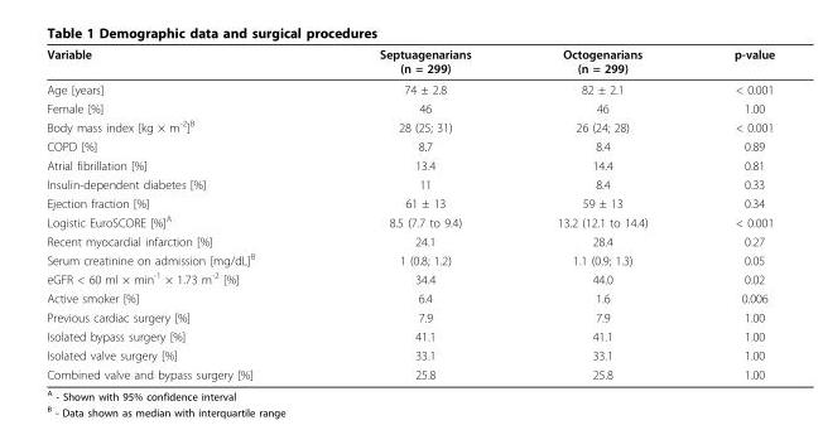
<table><thead><tr><td>Variable</td><td>Septuagenarians (n = 299)</td><td>Octogenarians (n = 299)</td><td>p-value</td></tr></thead><tbody><tr><td>Age [years]</td><td>74 ± 2.8</td><td>82 ± 2.1</td><td>&lt; 0.001</td></tr><tr><td>Female [%]</td><td>46</td><td>46</td><td>1.00</td></tr><tr><td>Body mass index [kg × m<sup>-2</sup>]<sup>B</sup></td><td>28 (25; 31)</td><td>26 (24; 28)</td><td>&lt; 0.001</td></tr><tr><td>COPD [%]</td><td>8.7</td><td>8.4</td><td>0.89</td></tr><tr><td>Atrial fibrillation [%]</td><td>13.4</td><td>14.4</td><td>0.81</td></tr><tr><td>Insulin-dependent diabetes [%]</td><td>11</td><td>8.4</td><td>0.33</td></tr><tr><td>Ejection fraction [%]</td><td>61 ± 13</td><td>59 ± 13</td><td>0.34</td></tr><tr><td>Logistic EuroSCORE [%]<sup>A</sup></td><td>8.5 (7.7 to 9.4)</td><td>13.2 (12.1 to 14.4)</td><td>&lt; 0.001</td></tr><tr><td>Recent myocardial infarction [%]</td><td>24.1</td><td>28.4</td><td>0.27</td></tr><tr><td>Serum creatinine on admission [mg/dL]<sup>B</sup></td><td>1 (0.8; 1.2)</td><td>1.1 (0.9; 1.3)</td><td>0.05</td></tr><tr><td>eGFR &lt; 60 ml × min<sup>-1</sup> × 1.73 m<sup>-2</sup> [%]</td><td>34.4</td><td>44.0</td><td>0.02</td></tr><tr><td>Active smoker [%]</td><td>6.4</td><td>1.6</td><td>0.006</td></tr><tr><td>Previous cardiac surgery [%]</td><td>7.9</td><td>7.9</td><td>1.00</td></tr><tr><td>Isolated bypass surgery [%]</td><td>41.1</td><td>41.1</td><td>1.00</td></tr><tr><td>Isolated valve surgery [%]</td><td>33.1</td><td>33.1</td><td>1.00</td></tr><tr><td>Combined valve and bypass surgery [%]</td><td>25.8</td><td>25.8</td><td>1.00</td></tr></tbody></table>